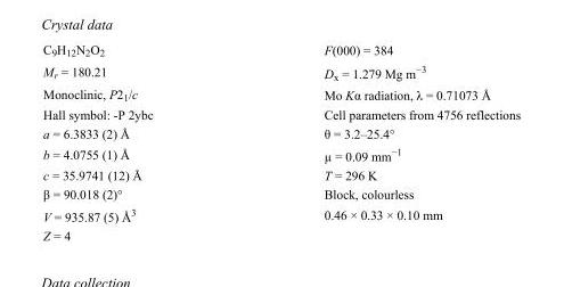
<table><tbody><tr><td>C<sub>9</sub>H<sub>12</sub>N<sub>2</sub>O<sub>2</sub></td><td>F(000) = 384</td></tr><tr><td>M<sub>r</sub> = 180.21</td><td>D<sub>x</sub> = 1.279 Mg m<sup>−3</sup></td></tr><tr><td>Monoclinic, P2<sub>1</sub>/c</td><td>Mo Kα radiation, λ = 0.71073 Å</td></tr><tr><td>Hall symbol: -P 2ybc</td><td>Cell parameters from 4756 reflections</td></tr><tr><td>a = 6.3833 (2) Å</td><td>θ = 3.2–25.4°</td></tr><tr><td>b = 4.0755 (1) Å</td><td>µ = 0.09 mm<sup>−1</sup></td></tr><tr><td>c = 35.9741 (12) Å</td><td>T = 296 K</td></tr><tr><td>β = 90.018 (2)°</td><td>Block, colourless</td></tr><tr><td>V = 935.87 (5) Å<sup>3</sup></td><td>0.46 × 0.33 × 0.10 mm</td></tr><tr><td>Z = 4</td><td></td></tr></tbody></table>